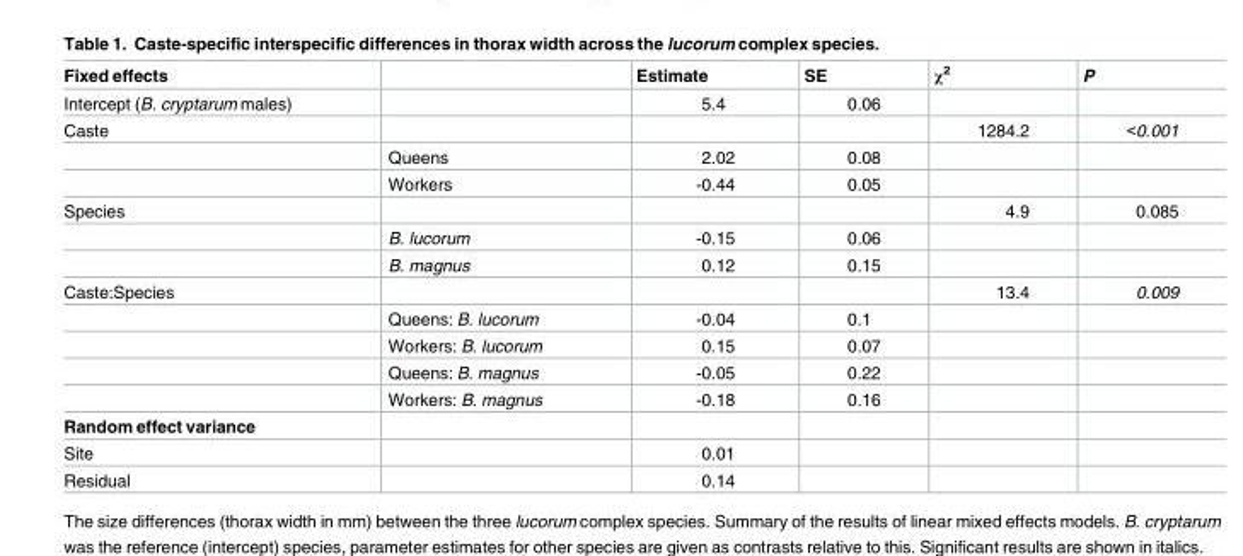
<table><thead><tr><td>Fixed effects</td><td></td><td>Estimate</td><td>SE</td><td>χ<sup>2</sup></td><td>P</td></tr></thead><tbody><tr><td>Intercept (B. cryptarum males)</td><td></td><td>5.4</td><td>0.06</td><td></td><td></td></tr><tr><td rowspan="3">Caste</td><td></td><td></td><td></td><td>1284.2</td><td>&lt;0.001</td></tr><tr><td>Queens</td><td>2.02</td><td>0.08</td><td></td><td></td></tr><tr><td>Workers</td><td>-0.44</td><td>0.05</td><td></td><td></td></tr><tr><td rowspan="3">Species</td><td></td><td></td><td></td><td>4.9</td><td>0.085</td></tr><tr><td>B. lucorum</td><td>-0.15</td><td>0.06</td><td></td><td></td></tr><tr><td>B. magnus</td><td>0.12</td><td>0.15</td><td></td><td></td></tr><tr><td rowspan="5">Caste:Species</td><td></td><td></td><td></td><td>13.4</td><td>0.009</td></tr><tr><td>Queens: B. lucorum</td><td>-0.04</td><td>0.1</td><td></td><td></td></tr><tr><td>Workers: B. lucorum</td><td>0.15</td><td>0.07</td><td></td><td></td></tr><tr><td>Queens: B. magnus</td><td>-0.05</td><td>0.22</td><td></td><td></td></tr><tr><td>Workers: B. magnus</td><td>-0.18</td><td>0.16</td><td></td><td></td></tr><tr><td colspan="6">Random effect variance</td></tr><tr><td>Site</td><td></td><td>0.01</td><td></td><td></td><td></td></tr><tr><td>Residual</td><td></td><td>0.14</td><td></td><td></td><td></td></tr></tbody></table>